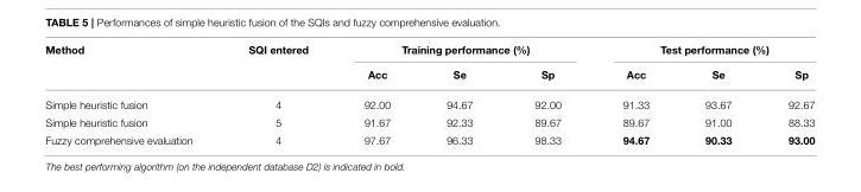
<table><thead><tr><td rowspan="2">Method</td><td rowspan="2">SQI entered</td><td colspan="3">Training performance (%)</td><td colspan="3">Test performance (%)</td></tr><tr><td>Acc</td><td>Se</td><td>Sp</td><td>Acc</td><td>Se</td><td>Sp</td></tr></thead><tbody><tr><td>Simple heuristic fusion</td><td>4</td><td>92.00</td><td>94.67</td><td>92.00</td><td>91.33</td><td>93.67</td><td>92.67</td></tr><tr><td>Simple heuristic fusion</td><td>5</td><td>91.67</td><td>92.33</td><td>89.67</td><td>89.67</td><td>91.00</td><td>88.33</td></tr><tr><td>Fuzzy comprehensive evaluation</td><td>4</td><td>97.67</td><td>96.33</td><td>98.33</td><td>94.67</td><td>90.33</td><td>93.00</td></tr></tbody></table>